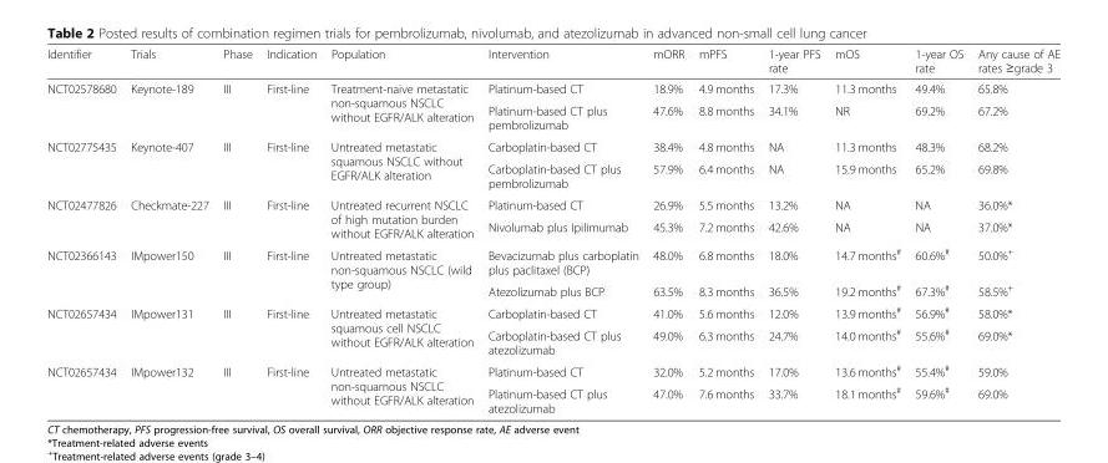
<table><thead><tr><td>Identifier</td><td>Trials</td><td>Phase</td><td>Indication</td><td>Population</td><td>Intervention</td><td>mORR</td><td>mPFS</td><td>1-year PFS rate</td><td>mOS</td><td>1-year OS rate</td><td>Any cause of AE rates ≥grade 3</td></tr></thead><tbody><tr><td rowspan="2">NCT02578680</td><td rowspan="2">Keynote-189</td><td rowspan="2">III</td><td rowspan="2">First-line</td><td rowspan="2">Treatment-naive metastatic non-squamous NSCLC without EGFR/ALK alteration</td><td>Platinum-based CT</td><td>18.9%</td><td>4.9 months</td><td>17.3%</td><td>11.3 months</td><td>49.4%</td><td>65.8%</td></tr><tr><td>Platinum-based CT plus pembrolizumab</td><td>47.6%</td><td>8.8 months</td><td>34.1%</td><td>NR</td><td>69.2%</td><td>67.2%</td></tr><tr><td rowspan="2">NCT02775435</td><td rowspan="2">Keynote-407</td><td rowspan="2">III</td><td rowspan="2">First-line</td><td rowspan="2">Untreated metastatic squamous NSCLC without EGFR/ALK alteration</td><td>Carboplatin-based CT</td><td>38.4%</td><td>4.8 months</td><td>NA</td><td>11.3 months</td><td>48.3%</td><td>68.2%</td></tr><tr><td>Carboplatin-based CT plus pembrolizumab</td><td>57.9%</td><td>6.4 months</td><td>NA</td><td>15.9 months</td><td>65.2%</td><td>69.8%</td></tr><tr><td rowspan="2">NCT02477826</td><td rowspan="2">Checkmate-227</td><td rowspan="2">III</td><td rowspan="2">First-line</td><td rowspan="2">Untreated recurrent NSCLC of high mutation burden without EGFR/ALK alteration</td><td>Platinum-based CT</td><td>26.9%</td><td>5.5 months</td><td>13.2%</td><td>NA</td><td>NA</td><td>36.0%*</td></tr><tr><td>Nivolumab plus Ipilimumab</td><td>45.3%</td><td>7.2 months</td><td>42.6%</td><td>NA</td><td>NA</td><td>37.0%*</td></tr><tr><td rowspan="2">NCT02366143</td><td rowspan="2">IMpower150</td><td rowspan="2">III</td><td rowspan="2">First-line</td><td rowspan="2">Untreated metastatic non-squamous NSCLC (wild type group)</td><td>Bevacizumab plus carboplatin plus paclitaxel (BCP)</td><td>48.0%</td><td>6.8 months</td><td>18.0%</td><td>14.7 months<sup>#</sup></td><td>60.6%<sup>#</sup></td><td>50.0%<sup>+</sup></td></tr><tr><td>Atezolizumab plus BCP</td><td>63.5%</td><td>8.3 months</td><td>36.5%</td><td>19.2 months<sup>#</sup></td><td>67.3%<sup>#</sup></td><td>58.5%<sup>+</sup></td></tr><tr><td rowspan="2">NCT02657434</td><td rowspan="2">IMpower131</td><td rowspan="2">III</td><td rowspan="2">First-line</td><td rowspan="2">Untreated metastatic squamous cell NSCLC without EGFR/ALK alteration</td><td>Carboplatin-based CT</td><td>41.0%</td><td>5.6 months</td><td>12.0%</td><td>13.9 months<sup>#</sup></td><td>56.9%<sup>#</sup></td><td>58.0%*</td></tr><tr><td>Carboplatin-based CT plus atezolizumab</td><td>49.0%</td><td>6.3 months</td><td>24.7%</td><td>14.0 months<sup>#</sup></td><td>55.6%<sup>#</sup></td><td>69.0%*</td></tr><tr><td rowspan="2">NCT02657434</td><td rowspan="2">IMpower132</td><td rowspan="2">III</td><td rowspan="2">First-line</td><td rowspan="2">Untreated metastatic non-squamous NSCLC without EGFR/ALK alteration</td><td>Platinum-based CT</td><td>32.0%</td><td>5.2 months</td><td>17.0%</td><td>13.6 months<sup>#</sup></td><td>55.4%<sup>#</sup></td><td>59.0%</td></tr><tr><td>Platinum-based CT plus atezolizumab</td><td>47.0%</td><td>7.6 months</td><td>33.7%</td><td>18.1 months<sup>#</sup></td><td>59.6%<sup>#</sup></td><td>69.0%</td></tr></tbody></table>